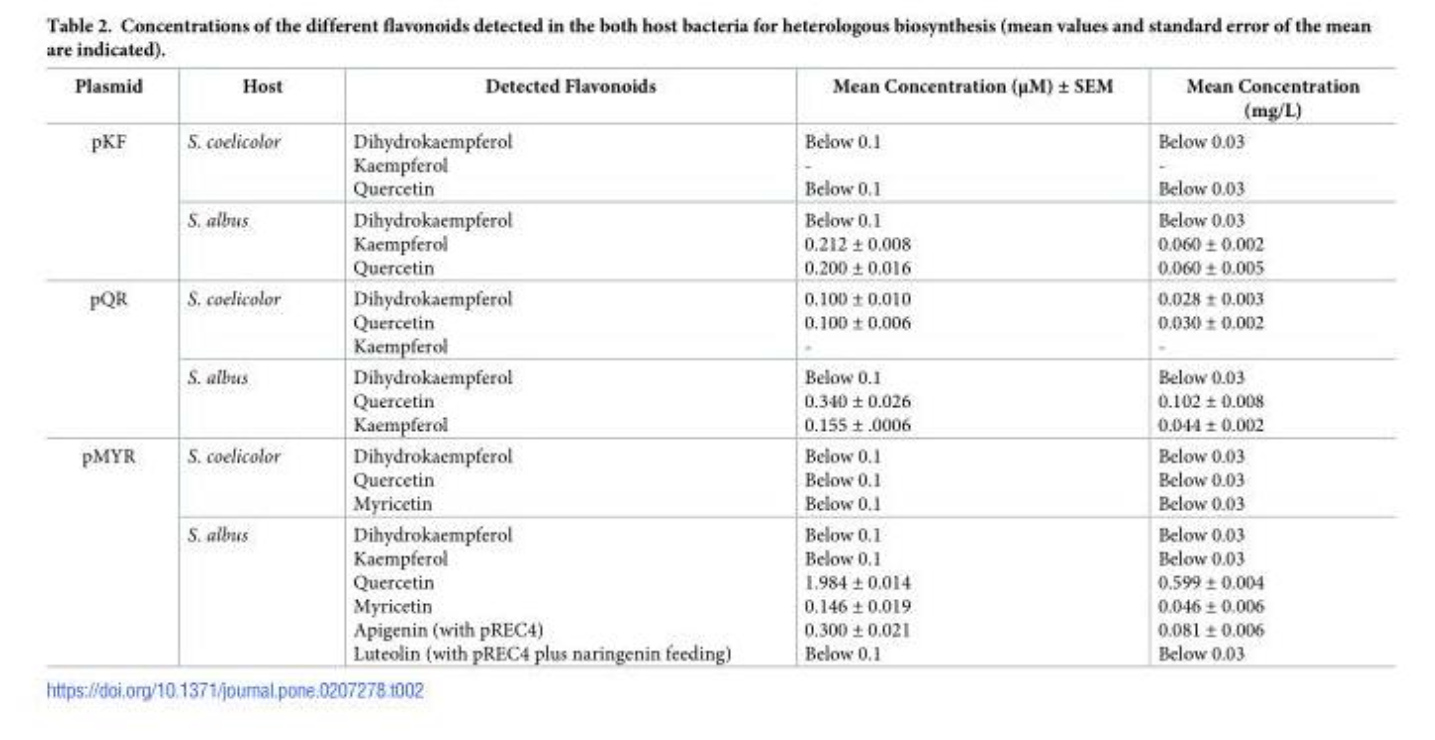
<table><thead><tr><td>Plasmid</td><td>Host</td><td>Detected Flavonoids</td><td>Mean Concentration (μM) ± SEM</td><td>Mean Concentration (mg/L)</td></tr></thead><tbody><tr><td rowspan="2">pKF</td><td>S. coelicolor</td><td>Dihydrokaempferol Kaempferol Quercetin</td><td>Below 0.1 - Below 0.1</td><td>Below 0.03 - Below 0.03</td></tr><tr><td>S. albus</td><td>Dihydrokaempferol Kaempferol Quercetin</td><td>Below 0.1 0.212 ± 0.008 0.200 ± 0.016</td><td>Below 0.03 0.060 ± 0.002 0.060 ± 0.005</td></tr><tr><td rowspan="2">pQR</td><td>S. coelicolor</td><td>Dihydrokaempferol Quercetin Kaempferol</td><td>0.100 ± 0.010 0.100 ± 0.006 -</td><td>0.028 ± 0.003 0.030 ± 0.002 -</td></tr><tr><td>S. albus</td><td>Dihydrokaempferol Quercetin Kaempferol</td><td>Below 0.1 0.340 ± 0.026 0.155 ± .0006</td><td>Below 0.03 0.102 ± 0.008 0.044 ± 0.002</td></tr><tr><td rowspan="2">pMYR</td><td>S. coelicolor</td><td>Dihydrokaempferol Quercetin Myricetin</td><td>Below 0.1 Below 0.1 Below 0.1</td><td>Below 0.03 Below 0.03 Below 0.03</td></tr><tr><td>S. albus</td><td>Dihydrokaempferol Kaempferol Quercetin Myricetin Apigenin (with pREC4) Luteolin (with pREC4 plus naringenin feeding)</td><td>Below 0.1 Below 0.1 1.984 ± 0.014 0.146 ± 0.019 0.300 ± 0.021 Below 0.1</td><td>Below 0.03 Below 0.03 0.599 ± 0.004 0.046 ± 0.006 0.081 ± 0.006 Below 0.03</td></tr></tbody></table>